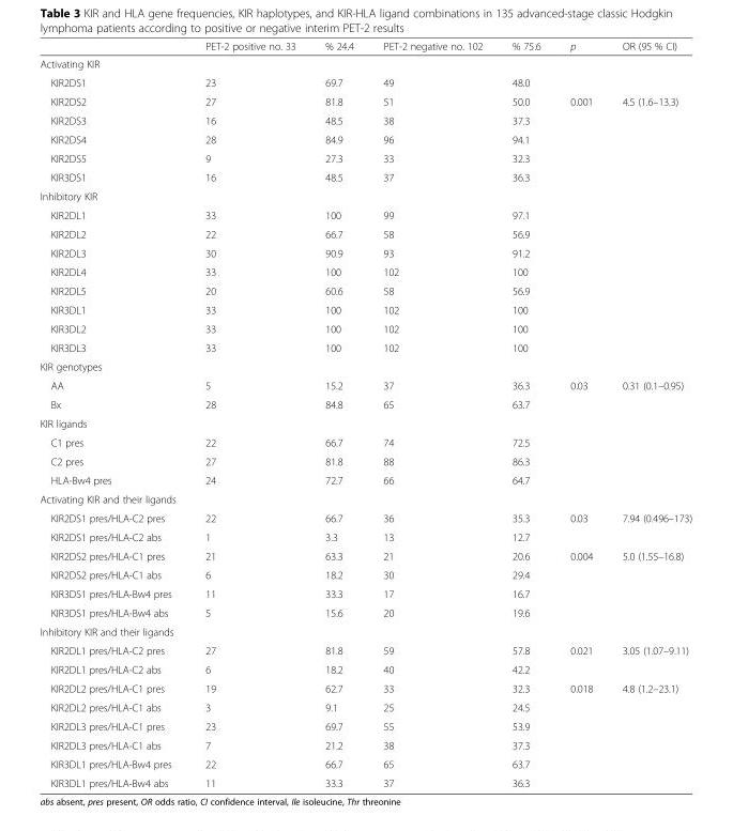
<table><thead><tr><td></td><td>PET-2 positive no. 33</td><td>% 24.4</td><td>PET-2 negative no. 102</td><td>% 75.6</td><td>p</td><td>OR (95 % CI)</td></tr></thead><tbody><tr><td colspan="7">Activating KIR</td></tr><tr><td>KIR2DS1</td><td>23</td><td>69.7</td><td>49</td><td>48.0</td><td></td><td></td></tr><tr><td>KIR2DS2</td><td>27</td><td>81.8</td><td>51</td><td>50.0</td><td>0.001</td><td>4.5 (1.6–13.3)</td></tr><tr><td>KIR2DS3</td><td>16</td><td>48.5</td><td>38</td><td>37.3</td><td></td><td></td></tr><tr><td>KIR2DS4</td><td>28</td><td>84.9</td><td>96</td><td>94.1</td><td></td><td></td></tr><tr><td>KIR2DS5</td><td>9</td><td>27.3</td><td>33</td><td>32.3</td><td></td><td></td></tr><tr><td>KIR3DS1</td><td>16</td><td>48.5</td><td>37</td><td>36.3</td><td></td><td></td></tr><tr><td colspan="7">Inhibitory KIR</td></tr><tr><td>KIR2DL1</td><td>33</td><td>100</td><td>99</td><td>97.1</td><td></td><td></td></tr><tr><td>KIR2DL2</td><td>22</td><td>66.7</td><td>58</td><td>56.9</td><td></td><td></td></tr><tr><td>KIR2DL3</td><td>30</td><td>90.9</td><td>93</td><td>91.2</td><td></td><td></td></tr><tr><td>KIR2DL4</td><td>33</td><td>100</td><td>102</td><td>100</td><td></td><td></td></tr><tr><td>KIR2DL5</td><td>20</td><td>60.6</td><td>58</td><td>56.9</td><td></td><td></td></tr><tr><td>KIR3DL1</td><td>33</td><td>100</td><td>102</td><td>100</td><td></td><td></td></tr><tr><td>KIR3DL2</td><td>33</td><td>100</td><td>102</td><td>100</td><td></td><td></td></tr><tr><td>KIR3DL3</td><td>33</td><td>100</td><td>102</td><td>100</td><td></td><td></td></tr><tr><td colspan="7">KIR genotypes</td></tr><tr><td>AA</td><td>5</td><td>15.2</td><td>37</td><td>36.3</td><td>0.03</td><td>0.31 (0.1–0.95)</td></tr><tr><td>Bx</td><td>28</td><td>84.8</td><td>65</td><td>63.7</td><td></td><td></td></tr><tr><td colspan="7">KIR ligands</td></tr><tr><td>C1 pres</td><td>22</td><td>66.7</td><td>74</td><td>72.5</td><td></td><td></td></tr><tr><td>C2 pres</td><td>27</td><td>81.8</td><td>88</td><td>86.3</td><td></td><td></td></tr><tr><td>HLA-Bw4 pres</td><td>24</td><td>72.7</td><td>66</td><td>64.7</td><td></td><td></td></tr><tr><td colspan="7">Activating KIR and their ligands</td></tr><tr><td>KIR2DS1 pres/HLA-C2 pres</td><td>22</td><td>66.7</td><td>36</td><td>35.3</td><td>0.03</td><td>7.94 (0.496–173)</td></tr><tr><td>KIR2DS1 pres/HLA-C2 abs</td><td>1</td><td>3.3</td><td>13</td><td>12.7</td><td></td><td></td></tr><tr><td>KIR2DS2 pres/HLA-C1 pres</td><td>21</td><td>63.3</td><td>21</td><td>20.6</td><td>0.004</td><td>5.0 (1.55–16.8)</td></tr><tr><td>KIR2DS2 pres/HLA-C1 abs</td><td>6</td><td>18.2</td><td>30</td><td>29.4</td><td></td><td></td></tr><tr><td>KIR3DS1 pres/HLA-Bw4 pres</td><td>11</td><td>33.3</td><td>17</td><td>16.7</td><td></td><td></td></tr><tr><td>KIR3DS1 pres/HLA-Bw4 abs</td><td>5</td><td>15.6</td><td>20</td><td>19.6</td><td></td><td></td></tr><tr><td colspan="7">Inhibitory KIR and their ligands</td></tr><tr><td>KIR2DL1 pres/HLA-C2 pres</td><td>27</td><td>81.8</td><td>59</td><td>57.8</td><td>0.021</td><td>3.05 (1.07–9.11)</td></tr><tr><td>KIR2DL1 pres/HLA-C2 abs</td><td>6</td><td>18.2</td><td>40</td><td>42.2</td><td></td><td></td></tr><tr><td>KIR2DL2 pres/HLA-C1 pres</td><td>19</td><td>62.7</td><td>33</td><td>32.3</td><td>0.018</td><td>4.8 (1.2–23.1)</td></tr><tr><td>KIR2DL2 pres/HLA-C1 abs</td><td>3</td><td>9.1</td><td>25</td><td>24.5</td><td></td><td></td></tr><tr><td>KIR2DL3 pres/HLA-C1 pres</td><td>23</td><td>69.7</td><td>55</td><td>53.9</td><td></td><td></td></tr><tr><td>KIR2DL3 pres/HLA-C1 abs</td><td>7</td><td>21.2</td><td>38</td><td>37.3</td><td></td><td></td></tr><tr><td>KIR3DL1 pres/HLA-Bw4 pres</td><td>22</td><td>66.7</td><td>65</td><td>63.7</td><td></td><td></td></tr><tr><td>KIR3DL1 pres/HLA-Bw4 abs</td><td>11</td><td>33.3</td><td>37</td><td>36.3</td><td></td><td></td></tr></tbody></table>